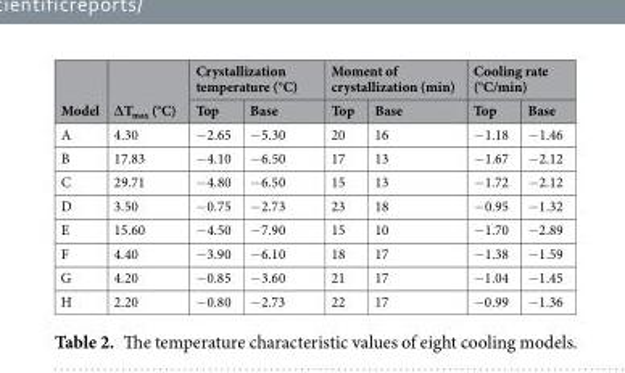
<table><thead><tr><td rowspan="2">Model</td><td rowspan="2">∆T<sub>max</sub> (°C)</td><td colspan="2">Crystallization temperature (°C)</td><td colspan="2">Moment of crystallization (min)</td><td colspan="2">Cooling rate (°C/min)</td></tr><tr><td>Top</td><td>Base</td><td>Top</td><td>Base</td><td>Top</td><td>Base</td></tr></thead><tbody><tr><td>A</td><td>4.30</td><td>−2.65</td><td>−5.30</td><td>20</td><td>16</td><td>−1.18</td><td>−1.46</td></tr><tr><td>B</td><td>17.83</td><td>−4.10</td><td>−6.50</td><td>17</td><td>13</td><td>−1.67</td><td>−2.12</td></tr><tr><td>C</td><td>29.71</td><td>−4.80</td><td>−6.50</td><td>15</td><td>13</td><td>−1.72</td><td>−2.12</td></tr><tr><td>D</td><td>3.50</td><td>−0.75</td><td>−2.73</td><td>23</td><td>18</td><td>−0.95</td><td>−1.32</td></tr><tr><td>E</td><td>15.60</td><td>−4.50</td><td>−7.90</td><td>15</td><td>10</td><td>−1.70</td><td>−2.89</td></tr><tr><td>F</td><td>4.40</td><td>−3.90</td><td>−6.10</td><td>18</td><td>17</td><td>−1.38</td><td>−1.59</td></tr><tr><td>G</td><td>4.20</td><td>−0.85</td><td>−3.60</td><td>21</td><td>17</td><td>−1.04</td><td>−1.45</td></tr><tr><td>H</td><td>2.20</td><td>−0.80</td><td>−2.73</td><td>22</td><td>17</td><td>−0.99</td><td>−1.36</td></tr></tbody></table>